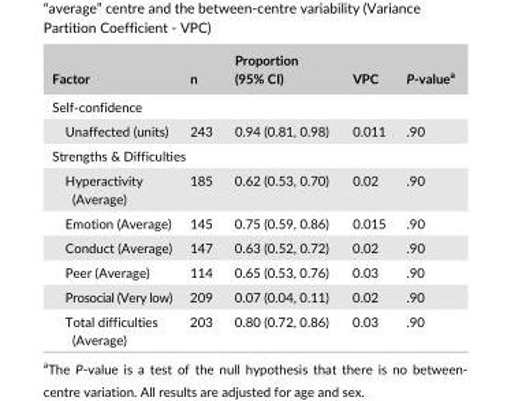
<table><thead><tr><td>Factor</td><td>n</td><td>Proportion (95% CI)</td><td>VPC</td><td>P- value<sup>a</sup></td></tr></thead><tbody><tr><td colspan="5">Self- confidence</td></tr><tr><td>Unaffected (units)</td><td>243</td><td>0.94 (0.81, 0.98)</td><td>0.011</td><td>.90</td></tr><tr><td colspan="5">Strengths &amp; Difficulties</td></tr><tr><td>Hyperactivity (Average)</td><td>185</td><td>0.62 (0.53, 0.70)</td><td>0.02</td><td>.90</td></tr><tr><td>Emotion (Average)</td><td>145</td><td>0.75 (0.59, 0.86)</td><td>0.015</td><td>.90</td></tr><tr><td>Conduct (Average)</td><td>147</td><td>0.63 (0.52, 0.72)</td><td>0.02</td><td>.90</td></tr><tr><td>Peer (Average)</td><td>114</td><td>0.65 (0.53, 0.76)</td><td>0.03</td><td>.90</td></tr><tr><td>Prosocial (Very low)</td><td>209</td><td>0.07 (0.04, 0.11)</td><td>0.02</td><td>.90</td></tr><tr><td>Total difficulties (Average)</td><td>203</td><td>0.80 (0.72, 0.86)</td><td>0.03</td><td>.90</td></tr></tbody></table>